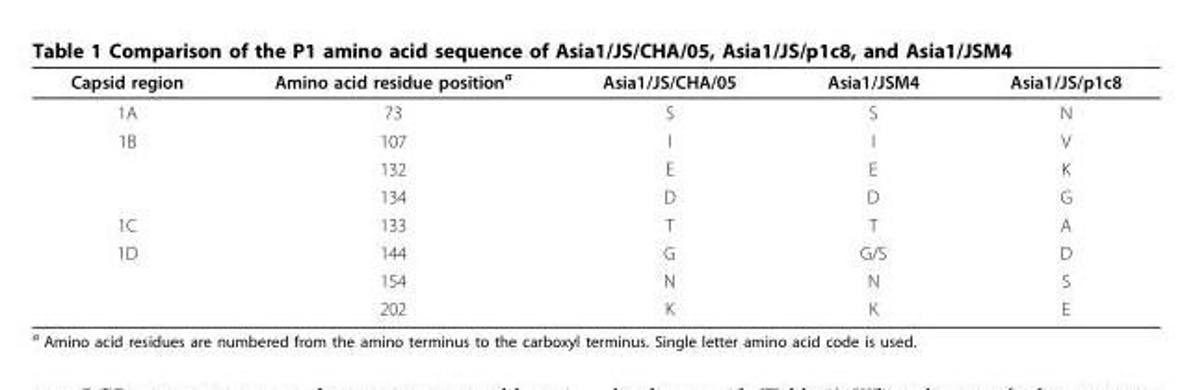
<table><thead><tr><td>Capsid region</td><td>Amino acid residue position<sup>a</sup></td><td>Asia1/JS/CHA/05</td><td>Asia1/JSM4</td><td>Asia1/JS/p1c8</td></tr></thead><tbody><tr><td>1A</td><td>73</td><td>S</td><td>S</td><td>N</td></tr><tr><td rowspan="3">1B</td><td>107</td><td>I</td><td>I</td><td>V</td></tr><tr><td>132</td><td>E</td><td>E</td><td>K</td></tr><tr><td>134</td><td>D</td><td>D</td><td>G</td></tr><tr><td>1C</td><td>133</td><td>T</td><td>T</td><td>A</td></tr><tr><td rowspan="3">1D</td><td>144</td><td>G</td><td>G/S</td><td>D</td></tr><tr><td>154</td><td>N</td><td>N</td><td>S</td></tr><tr><td>202</td><td>K</td><td>K</td><td>E</td></tr></tbody></table>